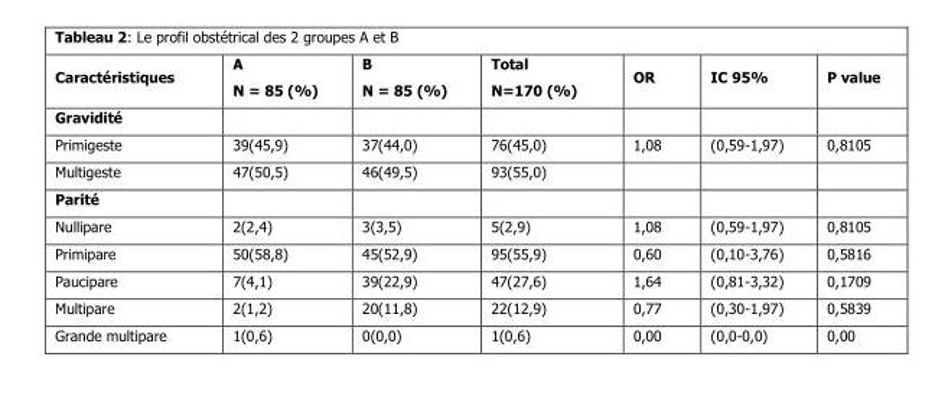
<table><thead><tr><td>Caractéristiques</td><td>A N = 85 (%)</td><td>B N = 85 (%)</td><td>Total N=170 (%)</td><td>OR</td><td>IC 95%</td><td>P value</td></tr></thead><tbody><tr><td colspan="7">Gravidité</td></tr><tr><td>Primigeste</td><td>39(45,9)</td><td>37(44,0)</td><td>76(45,0)</td><td>1,08</td><td>(0,59-1,97)</td><td>0,8105</td></tr><tr><td>Multigeste</td><td>47(50,5)</td><td>46(49,5)</td><td>93(55,0)</td><td></td><td></td><td></td></tr><tr><td colspan="7">Parité</td></tr><tr><td>Nullipare</td><td>2(2,4)</td><td>3(3,5)</td><td>5(2,9)</td><td>1,08</td><td>(0,59-1,97)</td><td>0,8105</td></tr><tr><td>Primipare</td><td>50(58,8)</td><td>45(52,9)</td><td>95(55,9)</td><td>0,60</td><td>(0,10-3,76)</td><td>0,5816</td></tr><tr><td>Paucipare</td><td>7(4,1)</td><td>39(22,9)</td><td>47(27,6)</td><td>1,64</td><td>(0,81-3,32)</td><td>0,1709</td></tr><tr><td>Multipare</td><td>2(1,2)</td><td>20(11,8)</td><td>22(12,9)</td><td>0,77</td><td>(0,30-1,97)</td><td>0,5839</td></tr><tr><td>Grande multipare</td><td>1(0,6)</td><td>0(0,0)</td><td>1(0,6)</td><td>0,00</td><td>(0,0-0,0)</td><td>0,00</td></tr></tbody></table>